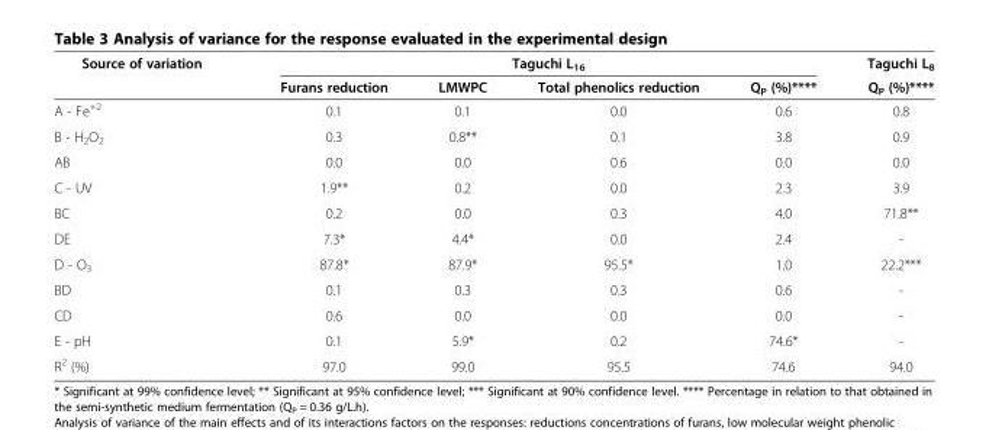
<table><thead><tr><td rowspan="2">Source of variation</td><td colspan="4">Taguchi L<sub>16</sub></td><td rowspan="2">Taguchi L<sub>8</sub> Q<sub>P</sub> (%)****</td></tr><tr><td>Furans reduction</td><td>LMWPC</td><td>Total phenolics reduction</td><td>Q<sub>P</sub> (%)****</td></tr></thead><tbody><tr><td>A - Fe<sup>+2</sup></td><td>0.1</td><td>0.1</td><td>0.0</td><td>0.6</td><td>0.8</td></tr><tr><td>B - H<sub>2</sub>O<sub>2</sub></td><td>0.3</td><td>0.8**</td><td>0.1</td><td>3.8</td><td>0.9</td></tr><tr><td>AB</td><td>0.0</td><td>0.0</td><td>0.6</td><td>0.0</td><td>0.0</td></tr><tr><td>C - UV</td><td>1.9**</td><td>0.2</td><td>0.0</td><td>2.3</td><td>3.9</td></tr><tr><td>BC</td><td>0.2</td><td>0.0</td><td>0.3</td><td>4.0</td><td>71.8**</td></tr><tr><td>DE</td><td>7.3*</td><td>4.4*</td><td>0.0</td><td>2.4</td><td>-</td></tr><tr><td>D - O<sub>3</sub></td><td>87.8*</td><td>87.9*</td><td>95.5*</td><td>1.0</td><td>22.2***</td></tr><tr><td>BD</td><td>0.1</td><td>0.3</td><td>0.3</td><td>0.6</td><td>-</td></tr><tr><td>CD</td><td>0.6</td><td>0.0</td><td>0.0</td><td>0.0</td><td>-</td></tr><tr><td>E - pH</td><td>0.1</td><td>5.9*</td><td>0.2</td><td>74.6*</td><td>-</td></tr><tr><td>R<sup>2</sup> (%)</td><td>97.0</td><td>99.0</td><td>95.5</td><td>74.6</td><td>94.0</td></tr></tbody></table>